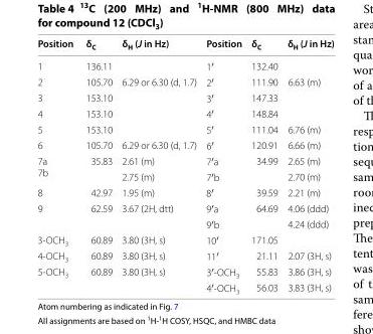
<table><thead><tr><td>Position</td><td>δ<sub>C</sub></td><td>δ<sub>H</sub> (J in Hz)</td><td>Position</td><td>δ<sub>C</sub></td><td>δ<sub>H</sub> (J in Hz)</td></tr></thead><tbody><tr><td>1</td><td>136.11</td><td></td><td>1′</td><td>132.40</td><td></td></tr><tr><td>2</td><td>105.70</td><td>6.29 or 6.30 (d, 1.7)</td><td>2′</td><td>111.90</td><td>6.63 (m)</td></tr><tr><td>3</td><td>153.10</td><td></td><td>3′</td><td>147.33</td><td></td></tr><tr><td>4</td><td>153.10</td><td></td><td>4′</td><td>148.84</td><td></td></tr><tr><td>5</td><td>153.10</td><td></td><td>5′</td><td>111.04</td><td>6.76 (m)</td></tr><tr><td>6</td><td>105.70</td><td>6.29 or 6.30 (d, 1.7)</td><td>6′</td><td>120.91</td><td>6.66 (m)</td></tr><tr><td rowspan="2">7a 7b</td><td rowspan="2">35.83</td><td>2.61 (m)</td><td>7′a</td><td rowspan="2">34.99</td><td>2.65 (m)</td></tr><tr><td>2.75 (m)</td><td>7′b</td><td>2.70 (m)</td></tr><tr><td>8</td><td>42.97</td><td>1.95 (m)</td><td>8′</td><td>39.59</td><td>2.21 (m)</td></tr><tr><td rowspan="2">9</td><td rowspan="2">62.59</td><td rowspan="2">3.67 (2H, dtt)</td><td>9′a</td><td rowspan="2">64.69</td><td>4.06 (ddd)</td></tr><tr><td>9′b</td><td>4.24 (ddd)</td></tr><tr><td>3-OCH<sub>3</sub></td><td>60.89</td><td>3.80 (3H, s)</td><td>10′</td><td>171.05</td><td></td></tr><tr><td>4-OCH<sub>3</sub></td><td>60.89</td><td>3.80 (3H, s)</td><td>11′</td><td>21.11</td><td>2.07 (3H, s)</td></tr><tr><td rowspan="2">5-OCH<sub>3</sub></td><td>60.89</td><td>3.80 (3H, s)</td><td>3′-OCH<sub>3</sub></td><td>55.83</td><td>3.86 (3H, s)</td></tr><tr><td></td><td></td><td>4′-OCH<sub>3</sub></td><td>56.03</td><td>3.83 (3H, s)</td></tr></tbody></table>